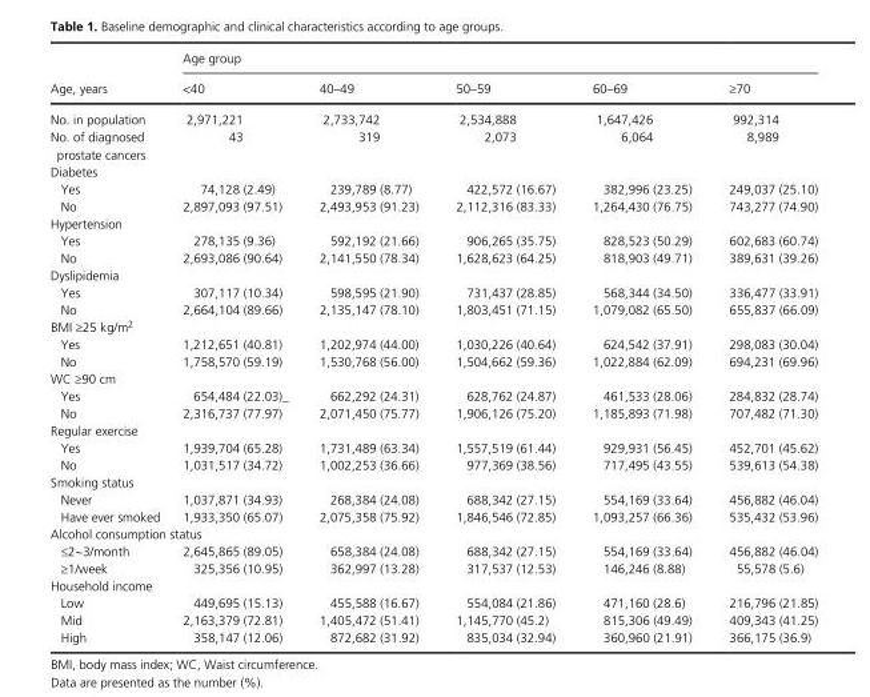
<table><thead><tr><td rowspan="2">Age, years</td><td colspan="5">Age group</td></tr><tr><td>&lt;40</td><td>40–49</td><td>50–59</td><td>60–69</td><td>≥70</td></tr></thead><tbody><tr><td>No. in population</td><td>2,971,221</td><td>2,733,742</td><td>2,534,888</td><td>1,647,426</td><td>992,314</td></tr><tr><td>No. of diagnosed prostate cancers</td><td>43</td><td>319</td><td>2,073</td><td>6,064</td><td>8,989</td></tr><tr><td colspan="6">Diabetes</td></tr><tr><td>Yes</td><td>74,128 (2.49)</td><td>239,789 (8.77)</td><td>422,572 (16.67)</td><td>382,996 (23.25)</td><td>249,037 (25.10)</td></tr><tr><td>No</td><td>2,897,093 (97.51)</td><td>2,493,953 (91.23)</td><td>2,112,316 (83.33)</td><td>1,264,430 (76.75)</td><td>743,277 (74.90)</td></tr><tr><td colspan="6">Hypertension</td></tr><tr><td>Yes</td><td>278,135 (9.36)</td><td>592,192 (21.66)</td><td>906,265 (35.75)</td><td>828,523 (50.29)</td><td>602,683 (60.74)</td></tr><tr><td>No</td><td>2,693,086 (90.64)</td><td>2,141,550 (78.34)</td><td>1,628,623 (64.25)</td><td>818,903 (49.71)</td><td>389,631 (39.26)</td></tr><tr><td colspan="6">Dyslipidemia</td></tr><tr><td>Yes</td><td>307,117 (10.34)</td><td>598,595 (21.90)</td><td>731,437 (28.85)</td><td>568,344 (34.50)</td><td>336,477 (33.91)</td></tr><tr><td>No</td><td>2,664,104 (89.66)</td><td>2,135,147 (78.10)</td><td>1,803,451 (71.15)</td><td>1,079,082 (65.50)</td><td>655,837 (66.09)</td></tr><tr><td colspan="6">BMI ≥25 kg/m<sup>2</sup></td></tr><tr><td>Yes</td><td>1,212,651 (40.81)</td><td>1,202,974 (44.00)</td><td>1,030,226 (40.64)</td><td>624,542 (37.91)</td><td>298,083 (30.04)</td></tr><tr><td>No</td><td>1,758,570 (59.19)</td><td>1,530,768 (56.00)</td><td>1,504,662 (59.36)</td><td>1,022,884 (62.09)</td><td>694,231 (69.96)</td></tr><tr><td colspan="6">WC ≥90 cm</td></tr><tr><td>Yes</td><td>654,484 (22.03)_</td><td>662,292 (24.31)</td><td>628,762 (24.87)</td><td>461,533 (28.06)</td><td>284,832 (28.74)</td></tr><tr><td>No</td><td>2,316,737 (77.97)</td><td>2,071,450 (75.77)</td><td>1,906,126 (75.20)</td><td>1,185,893 (71.98)</td><td>707,482 (71.30)</td></tr><tr><td colspan="6">Regular exercise</td></tr><tr><td>Yes</td><td>1,939,704 (65.28)</td><td>1,731,489 (63.34)</td><td>1,557,519 (61.44)</td><td>929,931 (56.45)</td><td>452,701 (45.62)</td></tr><tr><td>No</td><td>1,031,517 (34.72)</td><td>1,002,253 (36.66)</td><td>977,369 (38.56)</td><td>717,495 (43.55)</td><td>539,613 (54.38)</td></tr><tr><td colspan="6">Smoking status</td></tr><tr><td>Never</td><td>1,037,871 (34.93)</td><td>268,384 (24.08)</td><td>688,342 (27.15)</td><td>554,169 (33.64)</td><td>456,882 (46.04)</td></tr><tr><td>Have ever smoked</td><td>1,933,350 (65.07)</td><td>2,075,358 (75.92)</td><td>1,846,546 (72.85)</td><td>1,093,257 (66.36)</td><td>535,432 (53.96)</td></tr><tr><td colspan="6">Alcohol consumption status</td></tr><tr><td>≤2~3/month</td><td>2,645,865 (89.05)</td><td>658,384 (24.08)</td><td>688,342 (27.15)</td><td>554,169 (33.64)</td><td>456,882 (46.04)</td></tr><tr><td>≥1/week</td><td>325,356 (10.95)</td><td>362,997 (13.28)</td><td>317,537 (12.53)</td><td>146,246 (8.88)</td><td>55,578 (5.6)</td></tr><tr><td colspan="6">Household income</td></tr><tr><td>Low</td><td>449,695 (15.13)</td><td>455,588 (16.67)</td><td>554,084 (21.86)</td><td>471,160 (28.6)</td><td>216,796 (21.85)</td></tr><tr><td>Mid</td><td>2,163,379 (72.81)</td><td>1,405,472 (51.41)</td><td>1,145,770 (45.2)</td><td>815,306 (49.49)</td><td>409,343 (41.25)</td></tr><tr><td>High</td><td>358,147 (12.06)</td><td>872,682 (31.92)</td><td>835,034 (32.94)</td><td>360,960 (21.91)</td><td>366,175 (36.9)</td></tr></tbody></table>